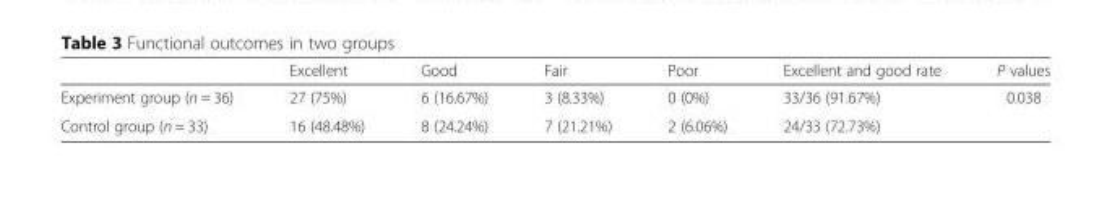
<table><thead><tr><td></td><td>Excellent</td><td>Good</td><td>Fair</td><td>Poor</td><td>Excellent and good rate</td><td>P values</td></tr></thead><tbody><tr><td>Experiment group (n = 36)</td><td>27 (75%)</td><td>6 (16.67%)</td><td>3 (8.33%)</td><td>0 (0%)</td><td>33/36 (91.67%)</td><td rowspan="2">0.038</td></tr><tr><td>Control group (n = 33)</td><td>16 (48.48%)</td><td>8 (24.24%)</td><td>7 (21.21%)</td><td>2 (6.06%)</td><td>24/33 (72.73%)</td></tr></tbody></table>